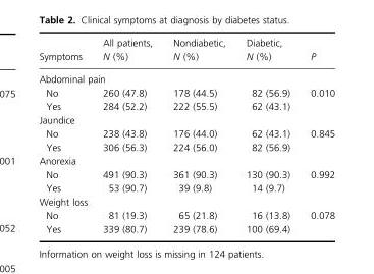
<table><thead><tr><td>Symptoms</td><td>All patients, N (%)</td><td>Nondiabetic, N (%)</td><td>Diabetic, N (%)</td><td>P</td></tr></thead><tbody><tr><td colspan="5">Abdominal pain</td></tr><tr><td>No</td><td>260 (47.8)</td><td>178 (44.5)</td><td>82 (56.9)</td><td rowspan="2">0.010</td></tr><tr><td>Yes</td><td>284 (52.2)</td><td>222 (55.5)</td><td>62 (43.1)</td></tr><tr><td colspan="5">Jaundice</td></tr><tr><td>No</td><td>238 (43.8)</td><td>176 (44.0)</td><td>62 (43.1)</td><td rowspan="2">0.845</td></tr><tr><td>Yes</td><td>306 (56.3)</td><td>224 (56.0)</td><td>82 (56.9)</td></tr><tr><td colspan="5">Anorexia</td></tr><tr><td>No</td><td>491 (90.3)</td><td>361 (90.3)</td><td>130 (90.3)</td><td rowspan="2">0.992</td></tr><tr><td>Yes</td><td>53 (90.7)</td><td>39 (9.8)</td><td>14 (9.7)</td></tr><tr><td colspan="5">Weight loss</td></tr><tr><td>No</td><td>81 (19.3)</td><td>65 (21.8)</td><td>16 (13.8)</td><td rowspan="2">0.078</td></tr><tr><td>Yes</td><td>339 (80.7)</td><td>239 (78.6)</td><td>100 (69.4)</td></tr></tbody></table>